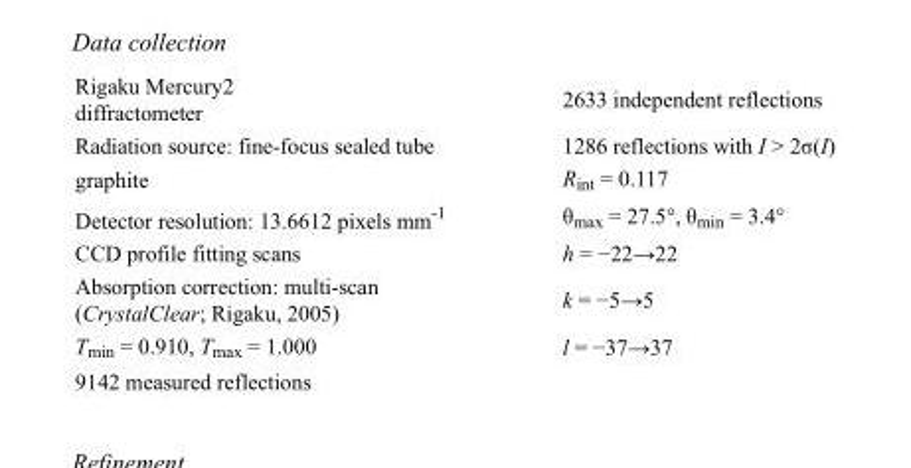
<table><tbody><tr><td>Rigaku Mercury2 diffractometer</td><td>2633 independent reflections</td></tr><tr><td>Radiation source: fine-focus sealed tube</td><td>1286 reflections with I &gt; 2σ(I)</td></tr><tr><td>graphite</td><td>R<sub>int</sub> = 0.117</td></tr><tr><td>Detector resolution: 13.6612 pixels mm<sup>-1</sup></td><td>θ<sub>max</sub> = 27.5°, θ<sub>min</sub> = 3.4°</td></tr><tr><td>CCD profile fitting scans</td><td>h = −22→22</td></tr><tr><td>Absorption correction: multi-scan (CrystalClear; Rigaku, 2005)</td><td>k = −5→5</td></tr><tr><td>T<sub>min</sub> = 0.910, T<sub>max</sub> = 1.000</td><td>l = −37→37</td></tr><tr><td>9142 measured reflections</td><td></td></tr></tbody></table>